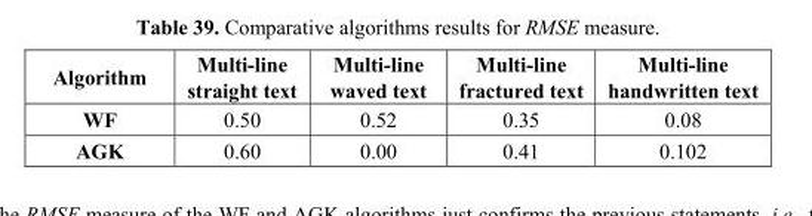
<table><thead><tr><td>Algorithm</td><td>Multi-line straight text</td><td>Multi-line waved text</td><td>Multi-line fractured text</td><td>Multi-line handwritten text</td></tr></thead><tbody><tr><td>WF</td><td>0.50</td><td>0.52</td><td>0.35</td><td>0.08</td></tr><tr><td>AGK</td><td>0.60</td><td>0.00</td><td>0.41</td><td>0.102</td></tr></tbody></table>